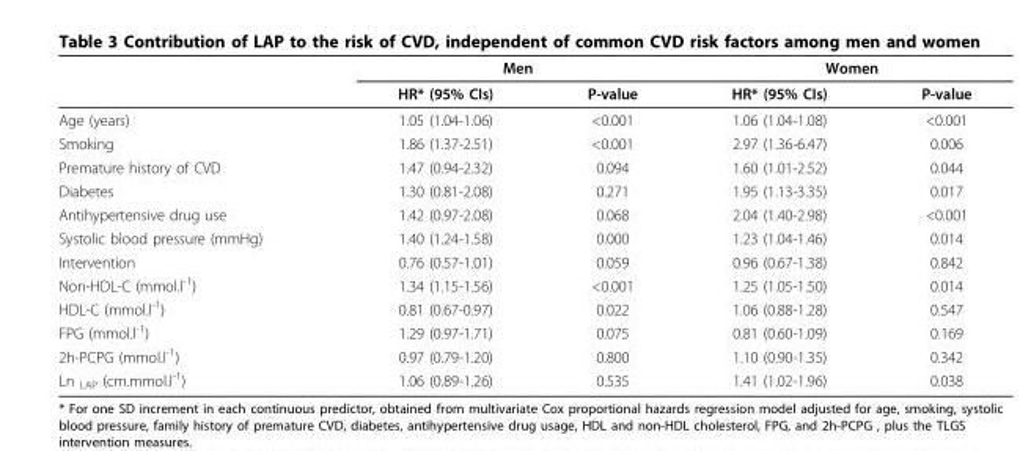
<table><thead><tr><td rowspan="2"></td><td colspan="2">Men</td><td colspan="2">Women</td></tr><tr><td>HR* (95% CIs)</td><td>P-value</td><td>HR* (95% CIs)</td><td>P-value</td></tr></thead><tbody><tr><td>Age (years)</td><td>1.05 (1.04-1.06)</td><td>&lt;0.001</td><td>1.06 (1.04-1.08)</td><td>&lt;0.001</td></tr><tr><td>Smoking</td><td>1.86 (1.37-2.51)</td><td>&lt;0.001</td><td>2.97 (1.36-6.47)</td><td>0.006</td></tr><tr><td>Premature history of CVD</td><td>1.47 (0.94-2.32)</td><td>0.094</td><td>1.60 (1.01-2.52)</td><td>0.044</td></tr><tr><td>Diabetes</td><td>1.30 (0.81-2.08)</td><td>0.271</td><td>1.95 (1.13-3.35)</td><td>0.017</td></tr><tr><td>Antihypertensive drug use</td><td>1.42 (0.97-2.08)</td><td>0.068</td><td>2.04 (1.40-2.98)</td><td>&lt;0.001</td></tr><tr><td>Systolic blood pressure (mmHg)</td><td>1.40 (1.24-1.58)</td><td>0.000</td><td>1.23 (1.04-1.46)</td><td>0.014</td></tr><tr><td>Intervention</td><td>0.76 (0.57-1.01)</td><td>0.059</td><td>0.96 (0.67-1.38)</td><td>0.842</td></tr><tr><td>Non-HDL-C (mmol.l<sup>-1</sup>)</td><td>1.34 (1.15-1.56)</td><td>&lt;0.001</td><td>1.25 (1.05-1.50)</td><td>0.014</td></tr><tr><td>HDL-C (mmol.l<sup>-1</sup>)</td><td>0.81 (0.67-0.97)</td><td>0.022</td><td>1.06 (0.88-1.28)</td><td>0.547</td></tr><tr><td>FPG (mmol.l<sup>-1</sup>)</td><td>1.29 (0.97-1.71)</td><td>0.075</td><td>0.81 (0.60-1.09)</td><td>0.169</td></tr><tr><td>2h-PCPG (mmol.l<sup>-1</sup>)</td><td>0.97 (0.79-1.20)</td><td>0.800</td><td>1.10 (0.90-1.35)</td><td>0.342</td></tr><tr><td>Ln <sub>LAP</sub> (cm.mmol.l<sup>-1</sup>)</td><td>1.06 (0.89-1.26)</td><td>0.535</td><td>1.41 (1.02-1.96)</td><td>0.038</td></tr></tbody></table>